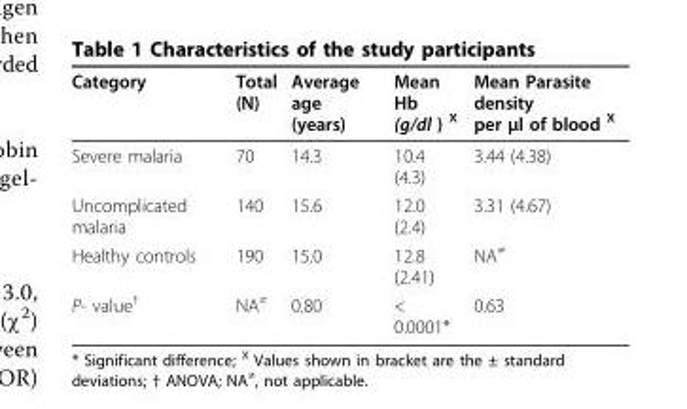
<table><thead><tr><td>Category</td><td>Total (N)</td><td>Average age (years)</td><td>Mean Hb (g/dl ) <sup>X</sup></td><td>Mean Parasite density per μl of blood <sup>X</sup></td></tr></thead><tbody><tr><td>Severe malaria</td><td>70</td><td>14.3</td><td>10.4 (4.3)</td><td>3.44 (4.38)</td></tr><tr><td>Uncomplicated malaria</td><td>140</td><td>15.6</td><td>12.0 (2.4)</td><td>3.31 (4.67)</td></tr><tr><td>Healthy controls</td><td>190</td><td>15.0</td><td>12.8 (2.41)</td><td>NA<sup>≠</sup></td></tr><tr><td>P- value<sup>†</sup></td><td>NA<sup>≠</sup></td><td>0.80</td><td>&lt; 0.0001*</td><td>0.63</td></tr></tbody></table>